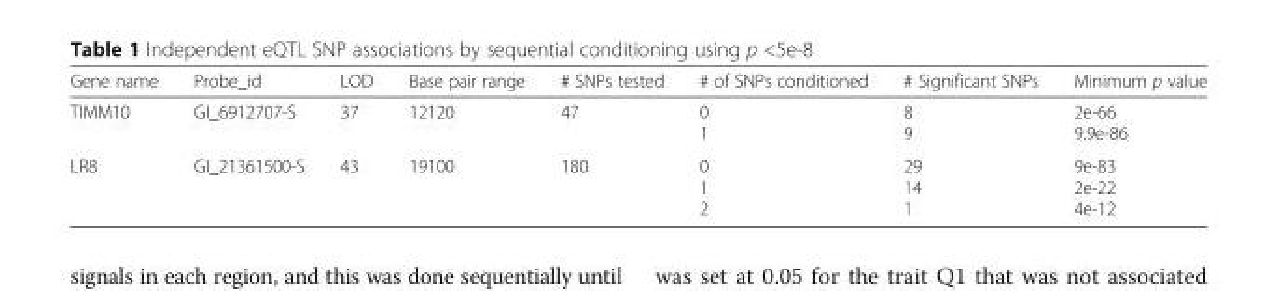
<table><thead><tr><td>Gene name</td><td>Probe_id</td><td>LOD</td><td>Base pair range</td><td># SNPs tested</td><td># of SNPs conditioned</td><td># Significant SNPs</td><td>Minimum p value</td></tr></thead><tbody><tr><td>TIMM10</td><td>GI_6912707-S</td><td>37</td><td>12120</td><td>47</td><td>0 1</td><td>8 9</td><td>2e-66 9.9e-86</td></tr><tr><td>LR8</td><td>GI_21361500-S</td><td>43</td><td>19100</td><td>180</td><td>0 1 2</td><td>29 14 1</td><td>9e-83 2e-22 4e-12</td></tr></tbody></table>